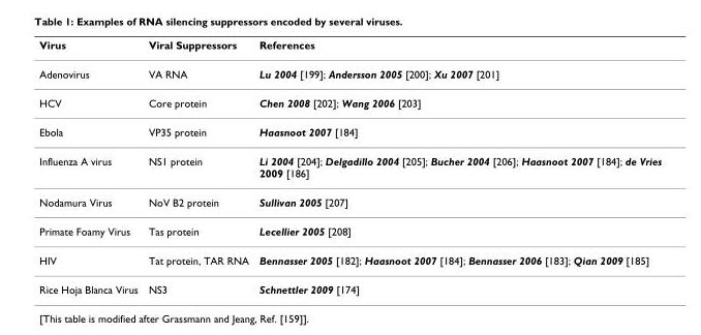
<table><thead><tr><td>Virus</td><td>Viral Suppressors</td><td>References</td></tr></thead><tbody><tr><td>Adenovirus</td><td>VA RNA</td><td>Lu 2004 [199]; Andersson 2005 [200]; Xu 2007 [201]</td></tr><tr><td>HCV</td><td>Core protein</td><td>Chen 2008 [202]; Wang 2006 [203]</td></tr><tr><td>Ebola</td><td>VP35 protein</td><td>Haasnoot 2007 [184]</td></tr><tr><td>Influenza A virus</td><td>NS1 protein</td><td>Li 2004 [204]; Delgadillo 2004 [205]; Bucher 2004 [206]; Haasnoot 2007 [184]; de Vries 2009 [186]</td></tr><tr><td>Nodamura Virus</td><td>NoV B2 protein</td><td>Sullivan 2005 [207]</td></tr><tr><td>Primate Foamy Virus</td><td>Tas protein</td><td>Lecellier 2005 [208]</td></tr><tr><td>HIV</td><td>Tat protein, TAR RNA</td><td>Bennasser 2005 [182]; Haasnoot 2007 [184]; Bennasser 2006 [183]; Qian 2009 [185]</td></tr><tr><td>Rice Hoja Blanca Virus</td><td>NS3</td><td>Schnettler 2009 [174]</td></tr></tbody></table>